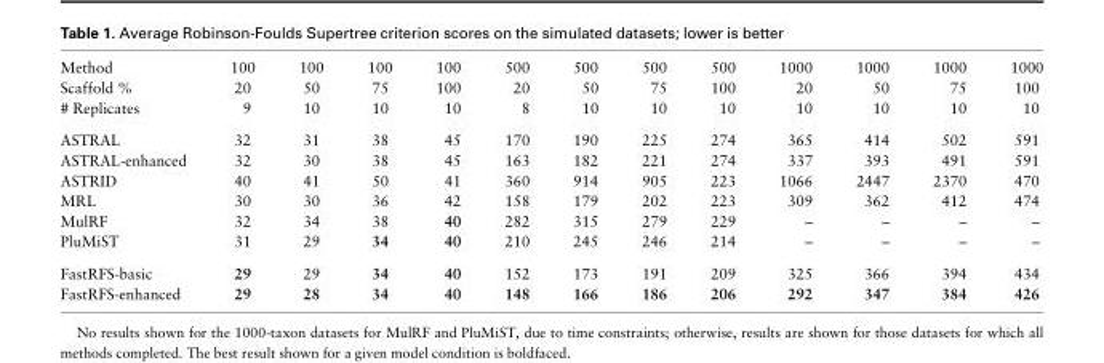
<table><tbody><tr><td>Method</td><td>100</td><td>100</td><td>100</td><td>100</td><td>500</td><td>500</td><td>500</td><td>500</td><td>1000</td><td>1000</td><td>1000</td><td>1000</td></tr><tr><td>Scaffold %</td><td>20</td><td>50</td><td>75</td><td>100</td><td>20</td><td>50</td><td>75</td><td>100</td><td>20</td><td>50</td><td>75</td><td>100</td></tr><tr><td># Replicates</td><td>9</td><td>10</td><td>10</td><td>10</td><td>8</td><td>10</td><td>10</td><td>10</td><td>10</td><td>10</td><td>10</td><td>10</td></tr><tr><td>ASTRAL</td><td>32</td><td>31</td><td>38</td><td>45</td><td>170</td><td>190</td><td>225</td><td>274</td><td>365</td><td>414</td><td>502</td><td>591</td></tr><tr><td>ASTRAL-enhanced</td><td>32</td><td>30</td><td>38</td><td>45</td><td>163</td><td>182</td><td>221</td><td>274</td><td>337</td><td>393</td><td>491</td><td>591</td></tr><tr><td>ASTRID</td><td>40</td><td>41</td><td>50</td><td>41</td><td>360</td><td>914</td><td>905</td><td>223</td><td>1066</td><td>2447</td><td>2370</td><td>470</td></tr><tr><td>MRL</td><td>30</td><td>30</td><td>36</td><td>42</td><td>158</td><td>179</td><td>202</td><td>223</td><td>309</td><td>362</td><td>412</td><td>474</td></tr><tr><td>MulRF</td><td>32</td><td>34</td><td>38</td><td>40</td><td>282</td><td>315</td><td>279</td><td>229</td><td>–</td><td>–</td><td>–</td><td>–</td></tr><tr><td>PluMiST</td><td>31</td><td>29</td><td>34</td><td>40</td><td>210</td><td>245</td><td>246</td><td>214</td><td>–</td><td>–</td><td>–</td><td>–</td></tr><tr><td>FastRFS-basic</td><td>29</td><td>29</td><td>34</td><td>40</td><td>152</td><td>173</td><td>191</td><td>209</td><td>325</td><td>366</td><td>394</td><td>434</td></tr><tr><td>FastRFS-enhanced</td><td>29</td><td>28</td><td>34</td><td>40</td><td>148</td><td>166</td><td>186</td><td>206</td><td>292</td><td>347</td><td>384</td><td>426</td></tr></tbody></table>